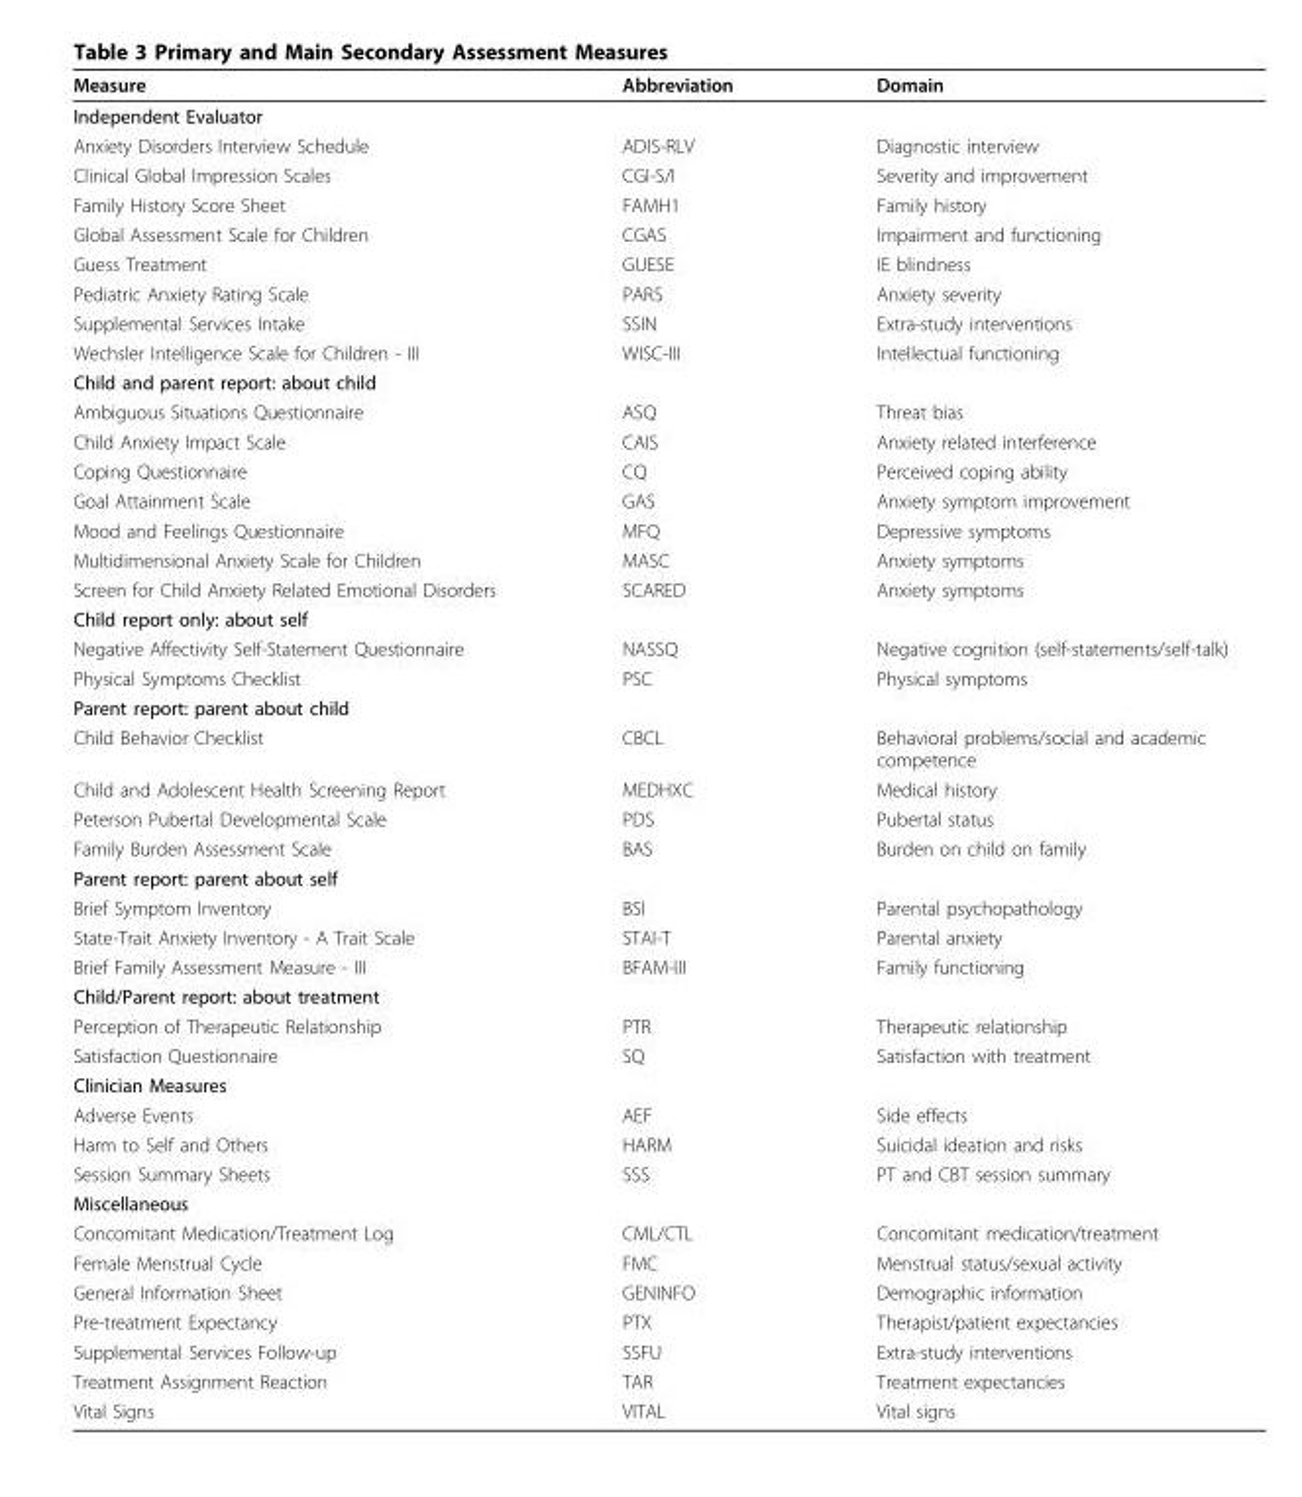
<table><thead><tr><td>Measure</td><td>Abbreviation</td><td>Domain</td></tr></thead><tbody><tr><td colspan="3">Independent Evaluator</td></tr><tr><td>Anxiety Disorders Interview Schedule</td><td>ADIS-RLV</td><td>Diagnostic interview</td></tr><tr><td>Clinical Global Impression Scales</td><td>CGI-S/I</td><td>Severity and improvement</td></tr><tr><td>Family History Score Sheet</td><td>FAMH1</td><td>Family history</td></tr><tr><td>Global Assessment Scale for Children</td><td>CGAS</td><td>Impairment and functioning</td></tr><tr><td>Guess Treatment</td><td>GUESE</td><td>IE blindness</td></tr><tr><td>Pediatric Anxiety Rating Scale</td><td>PARS</td><td>Anxiety severity</td></tr><tr><td>Supplemental Services Intake</td><td>SSIN</td><td>Extra-study interventions</td></tr><tr><td>Wechsler Intelligence Scale for Children - III</td><td>WISC-III</td><td>Intellectual functioning</td></tr><tr><td colspan="3">Child and parent report: about child</td></tr><tr><td>Ambiguous Situations Questionnaire</td><td>ASQ</td><td>Threat bias</td></tr><tr><td>Child Anxiety Impact Scale</td><td>CAIS</td><td>Anxiety related interference</td></tr><tr><td>Coping Questionnaire</td><td>CQ</td><td>Perceived coping ability</td></tr><tr><td>Goal Attainment Scale</td><td>GAS</td><td>Anxiety symptom improvement</td></tr><tr><td>Mood and Feelings Questionnaire</td><td>MFQ</td><td>Depressive symptoms</td></tr><tr><td>Multidimensional Anxiety Scale for Children</td><td>MASC</td><td>Anxiety symptoms</td></tr><tr><td>Screen for Child Anxiety Related Emotional Disorders</td><td>SCARED</td><td>Anxiety symptoms</td></tr><tr><td colspan="3">Child report only: about self</td></tr><tr><td>Negative Affectivity Self-Statement Questionnaire</td><td>NASSQ</td><td>Negative cognition (self-statements/self-talk)</td></tr><tr><td>Physical Symptoms Checklist</td><td>PSC</td><td>Physical symptoms</td></tr><tr><td colspan="3">Parent report: parent about child</td></tr><tr><td>Child Behavior Checklist</td><td>CBCL</td><td>Behavioral problems/social and academic competence</td></tr><tr><td>Child and Adolescent Health Screening Report</td><td>MEDHXC</td><td>Medical history</td></tr><tr><td>Peterson Pubertal Developmental Scale</td><td>PDS</td><td>Pubertal status</td></tr><tr><td>Family Burden Assessment Scale</td><td>BAS</td><td>Burden on child on family</td></tr><tr><td colspan="3">Parent report: parent about self</td></tr><tr><td>Brief Symptom Inventory</td><td>BSI</td><td>Parental psychopathology</td></tr><tr><td>State-Trait Anxiety Inventory - A Trait Scale</td><td>STAI-T</td><td>Parental anxiety</td></tr><tr><td>Brief Family Assessment Measure - III</td><td>BFAM-III</td><td>Family functioning</td></tr><tr><td colspan="3">Child/Parent report: about treatment</td></tr><tr><td>Perception of Therapeutic Relationship</td><td>PTR</td><td>Therapeutic relationship</td></tr><tr><td>Satisfaction Questionnaire</td><td>SQ</td><td>Satisfaction with treatment</td></tr><tr><td colspan="3">Clinician Measures</td></tr><tr><td>Adverse Events</td><td>AEF</td><td>Side effects</td></tr><tr><td>Harm to Self and Others</td><td>HARM</td><td>Suicidal ideation and risks</td></tr><tr><td>Session Summary Sheets</td><td>SSS</td><td>PT and CBT session summary</td></tr><tr><td colspan="3">Miscellaneous</td></tr><tr><td>Concomitant Medication/Treatment Log</td><td>CML/CTL</td><td>Concomitant medication/treatment</td></tr><tr><td>Female Menstrual Cycle</td><td>FMC</td><td>Menstrual status/sexual activity</td></tr><tr><td>General Information Sheet</td><td>GENINFO</td><td>Demographic information</td></tr><tr><td>Pre-treatment Expectancy</td><td>PTX</td><td>Therapist/patient expectancies</td></tr><tr><td>Supplemental Services Follow-up</td><td>SSFU</td><td>Extra-study interventions</td></tr><tr><td>Treatment Assignment Reaction</td><td>TAR</td><td>Treatment expectancies</td></tr><tr><td>Vital Signs</td><td>VITAL</td><td>Vital signs</td></tr></tbody></table>